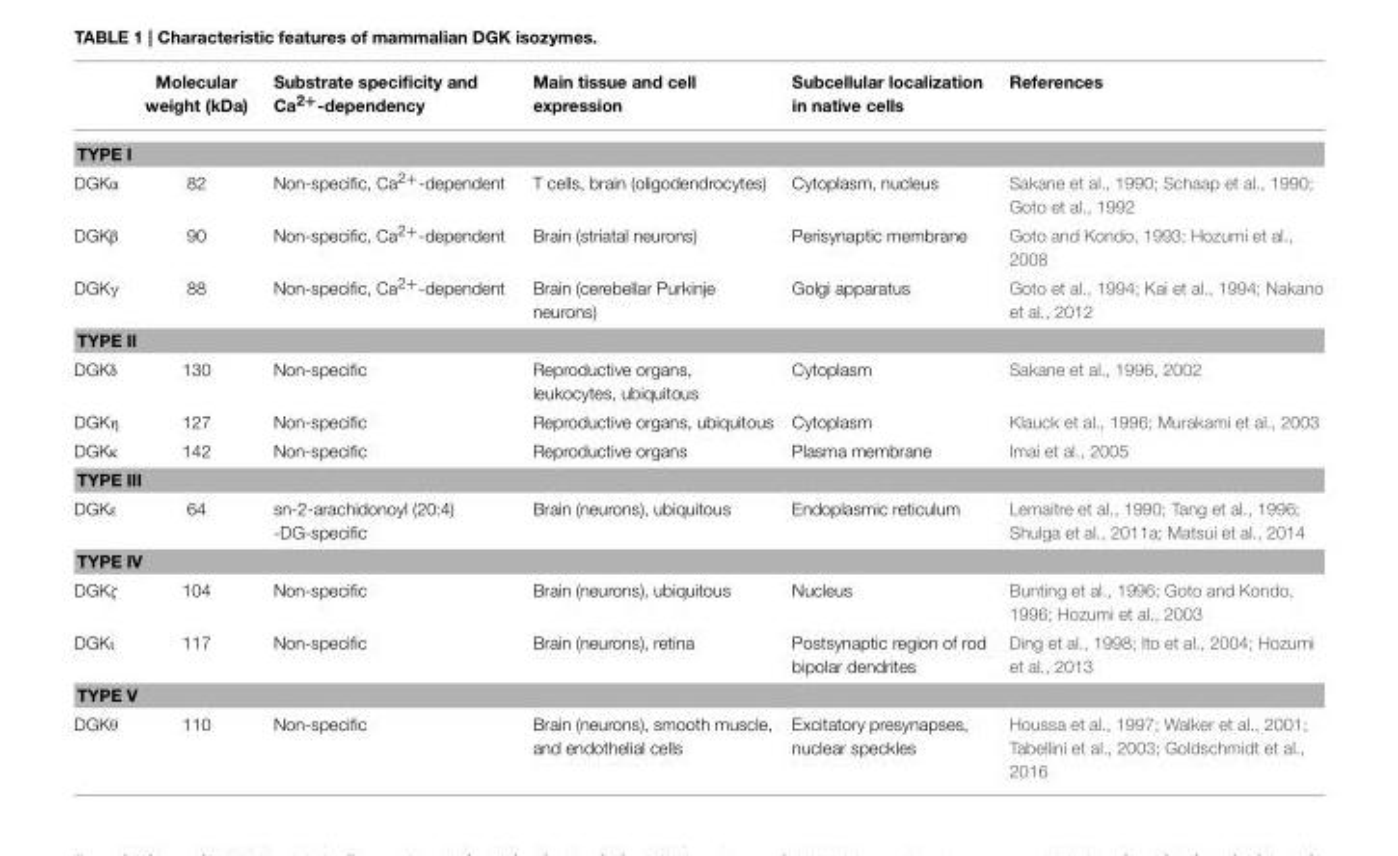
<table><thead><tr><td></td><td>Molecular weight (kDa)</td><td>Substrate specificity and Ca<sup>2+</sup>-dependency</td><td>Main tissue and cell expression</td><td>Subcellular localization in native cells</td><td>References</td></tr></thead><tbody><tr><td colspan="6">TYPE I</td></tr><tr><td>DGKα</td><td>82</td><td>Non-specific, Ca<sup>2+</sup>-dependent</td><td>T cells, brain (oligodendrocytes)</td><td>Cytoplasm, nucleus</td><td>Sakane et al., 1990; Schaap et al., 1990; Goto et al., 1992</td></tr><tr><td>DGKβ</td><td>90</td><td>Non-specific, Ca<sup>2+</sup>-dependent</td><td>Brain (striatal neurons)</td><td>Perisynaptic membrane</td><td>Goto and Kondo, 1993; Hozumi et al., 2008</td></tr><tr><td>DGKγ</td><td>88</td><td>Non-specific, Ca<sup>2+</sup>-dependent</td><td>Brain (cerebellar Purkinje neurons)</td><td>Golgi apparatus</td><td>Goto et al., 1994; Kai et al., 1994; Nakano et al., 2012</td></tr><tr><td colspan="6">TYPE II</td></tr><tr><td>DGKδ</td><td>130</td><td>Non-specific</td><td>Reproductive organs, leukocytes, ubiquitous</td><td>Cytoplasm</td><td>Sakane et al., 1996, 2002</td></tr><tr><td>DGKη</td><td>127</td><td>Non-specific</td><td>Reproductive organs, ubiquitous</td><td>Cytoplasm</td><td>Klauck et al., 1996; Murakami et al., 2003</td></tr><tr><td>DGKκ</td><td>142</td><td>Non-specific</td><td>Reproductive organs</td><td>Plasma membrane</td><td>Imai et al., 2005</td></tr><tr><td colspan="6">TYPE III</td></tr><tr><td>DGKε</td><td>64</td><td>sn-2-arachidonoyl (20:4) -DG-specific</td><td>Brain (neurons), ubiquitous</td><td>Endoplasmic reticulum</td><td>Lemaitre et al., 1990; Tang et al., 1996; Shulga et al., 2011a; Matsui et al., 2014</td></tr><tr><td colspan="6">TYPE IV</td></tr><tr><td>DGKζ</td><td>104</td><td>Non-specific</td><td>Brain (neurons), ubiquitous</td><td>Nucleus</td><td>Bunting et al., 1996; Goto and Kondo, 1996; Hozumi et al., 2003</td></tr><tr><td>DGKι</td><td>117</td><td>Non-specific</td><td>Brain (neurons), retina</td><td>Postsynaptic region of rod bipolar dendrites</td><td>Ding et al., 1998; Ito et al., 2004; Hozumi et al., 2013</td></tr><tr><td colspan="6">TYPE V</td></tr><tr><td>DGKθ</td><td>110</td><td>Non-specific</td><td>Brain (neurons), smooth muscle, and endothelial cells</td><td>Excitatory presynapses, nuclear speckles</td><td>Houssa et al., 1997; Walker et al., 2001; Tabellini et al., 2003; Goldschmidt et al., 2016</td></tr></tbody></table>